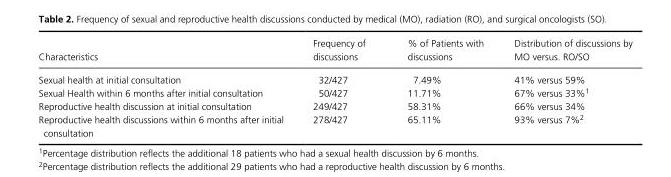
<table><thead><tr><td>Characteristics</td><td>Frequency of discussions</td><td>% of Patients with discussions</td><td>Distribution of discussions by MO versus. RO/SO</td></tr></thead><tbody><tr><td>Sexual health at initial consultation</td><td>32/427</td><td>7.49%</td><td>41% versus 59%</td></tr><tr><td>Sexual Health within 6 months after initial consultation</td><td>50/427</td><td>11.71%</td><td>67% versus 33%1</td></tr><tr><td>Reproductive health discussion at initial consultation</td><td>249/427</td><td>58.31%</td><td>66% versus 34%</td></tr><tr><td>Reproductive health discussions within 6 months after initial consultation</td><td>278/427</td><td>65.11%</td><td>93% versus 7%2</td></tr></tbody></table>